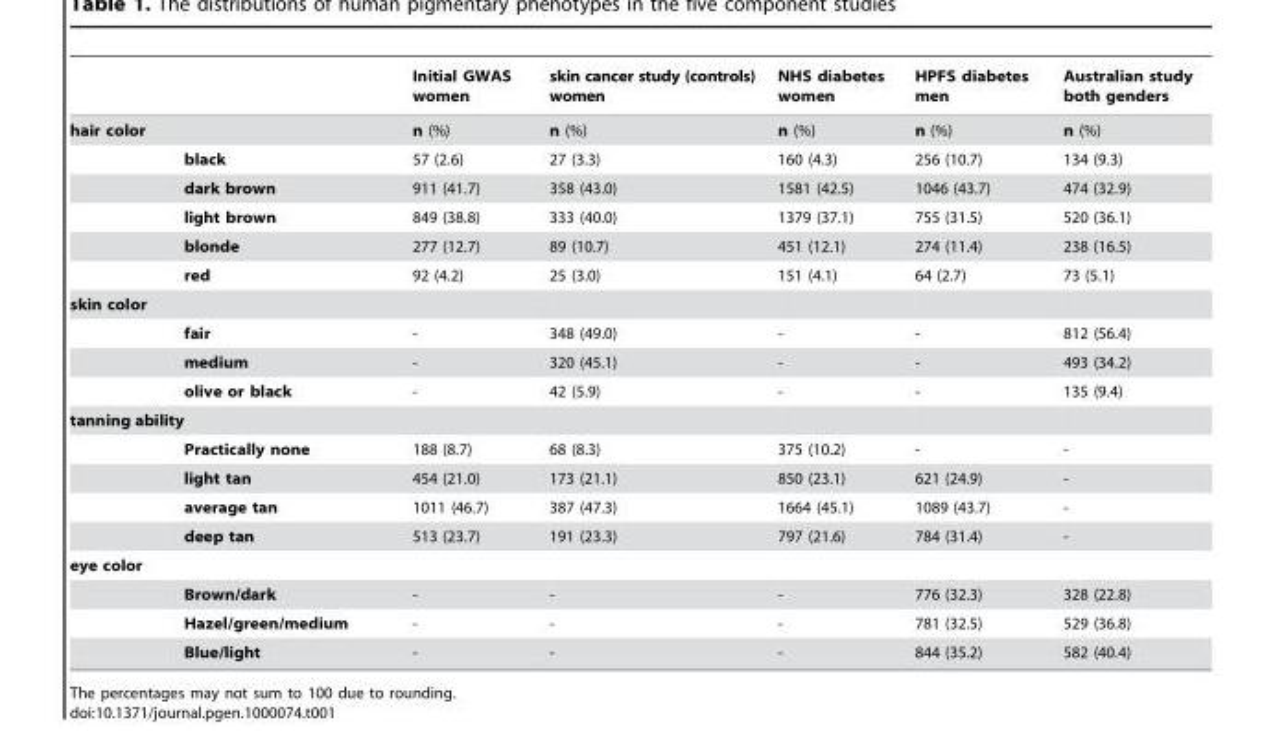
<table><thead><tr><td></td><td></td><td>Initial GWAS women</td><td>skin cancer study (controls) women</td><td>NHS diabetes women</td><td>HPFS diabetes men</td><td>Australian study both genders</td></tr></thead><tbody><tr><td rowspan="6">hair color</td><td></td><td>n (%)</td><td>n (%)</td><td>n (%)</td><td>n (%)</td><td>n (%)</td></tr><tr><td>black</td><td>57 (2.6)</td><td>27 (3.3)</td><td>160 (4.3)</td><td>256 (10.7)</td><td>134 (9.3)</td></tr><tr><td>dark brown</td><td>911 (41.7)</td><td>358 (43.0)</td><td>1581 (42.5)</td><td>1046 (43.7)</td><td>474 (32.9)</td></tr><tr><td>light brown</td><td>849 (38.8)</td><td>333 (40.0)</td><td>1379 (37.1)</td><td>755 (31.5)</td><td>520 (36.1)</td></tr><tr><td>blonde</td><td>277 (12.7)</td><td>89 (10.7)</td><td>451 (12.1)</td><td>274 (11.4)</td><td>238 (16.5)</td></tr><tr><td>red</td><td>92 (4.2)</td><td>25 (3.0)</td><td>151 (4.1)</td><td>64 (2.7)</td><td>73 (5.1)</td></tr><tr><td colspan="7">skin color</td></tr><tr><td></td><td>fair</td><td>-</td><td>348 (49.0)</td><td>-</td><td>-</td><td>812 (56.4)</td></tr><tr><td></td><td>medium</td><td>-</td><td>320 (45.1)</td><td>-</td><td>-</td><td>493 (34.2)</td></tr><tr><td></td><td>olive or black</td><td>-</td><td>42 (5.9)</td><td>-</td><td>-</td><td>135 (9.4)</td></tr><tr><td colspan="7">tanning ability</td></tr><tr><td></td><td>Practically none</td><td>188 (8.7)</td><td>68 (8.3)</td><td>375 (10.2)</td><td>-</td><td>-</td></tr><tr><td></td><td>light tan</td><td>454 (21.0)</td><td>173 (21.1)</td><td>850 (23.1)</td><td>621 (24.9)</td><td>-</td></tr><tr><td></td><td>average tan</td><td>1011 (46.7)</td><td>387 (47.3)</td><td>1664 (45.1)</td><td>1089 (43.7)</td><td>-</td></tr><tr><td></td><td>deep tan</td><td>513 (23.7)</td><td>191 (23.3)</td><td>797 (21.6)</td><td>784 (31.4)</td><td>-</td></tr><tr><td colspan="7">eye color</td></tr><tr><td></td><td>Brown/dark</td><td>-</td><td>-</td><td>-</td><td>776 (32.3)</td><td>328 (22.8)</td></tr><tr><td></td><td>Hazel/green/medium</td><td>-</td><td>-</td><td>-</td><td>781 (32.5)</td><td>529 (36.8)</td></tr><tr><td></td><td>Blue/light</td><td>-</td><td>-</td><td>-</td><td>844 (35.2)</td><td>582 (40.4)</td></tr></tbody></table>